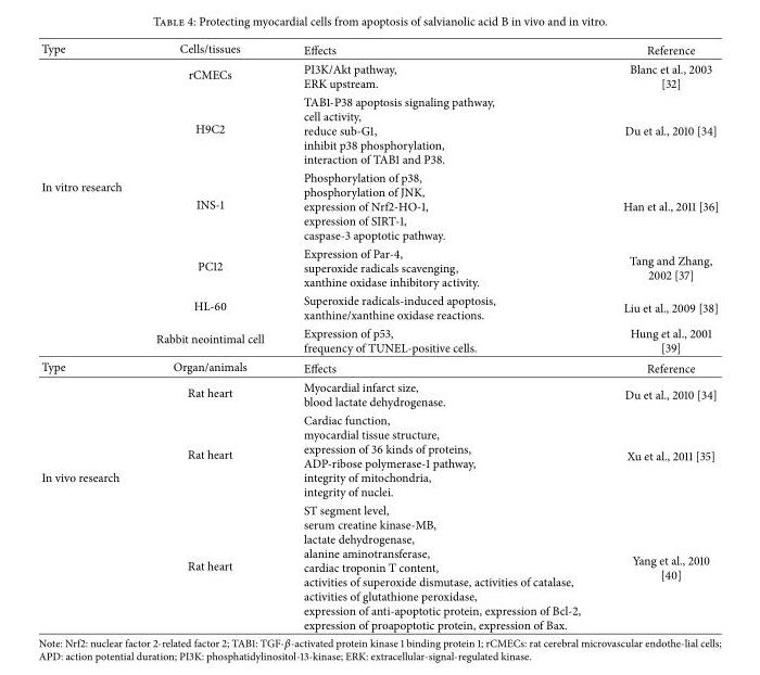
<table><thead><tr><td>Type</td><td>Cells/tissues</td><td>Effects</td><td>Reference</td></tr></thead><tbody><tr><td rowspan="6">In vitro research</td><td>rCMECs</td><td>PI3K/Akt pathway, ERK upstream.</td><td>Blanc et al., 2003 [32]</td></tr><tr><td>H9C2</td><td>TAB1-P38 apoptosis signaling pathway, cell activity, reduce sub-G1, inhibit p38 phosphorylation, interaction of TAB1 and P38.</td><td>Du et al., 2010 [34]</td></tr><tr><td>INS-1</td><td>Phosphorylation of p38, phosphorylation of JNK, expression of Nrf2-HO-1, expression of SIRT-1, caspase-3 apoptotic pathway.</td><td>Han et al., 2011 [36]</td></tr><tr><td>PC12</td><td>Expression of Par-4, superoxide radicals scavenging, xanthine oxidase inhibitory activity.</td><td>Tang and Zhang, 2002 [37]</td></tr><tr><td>HL-60</td><td>Superoxide radicals-induced apoptosis, xanthine/xanthine oxidase reactions.</td><td>Liu et al., 2009 [38]</td></tr><tr><td>Rabbit neointimal cell</td><td>Expression of p53, frequency of TUNEL-positive cells.</td><td>Hung et al., 2001 [39]</td></tr><tr><td>Type</td><td>Organ/animals</td><td>Effects</td><td>Reference</td></tr><tr><td rowspan="3">In vivo research</td><td>Rat heart</td><td>Myocardial infarct size, blood lactate dehydrogenase.</td><td>Du et al., 2010 [34]</td></tr><tr><td>Rat heart</td><td>Cardiac function, myocardial tissue structure, expression of 36 kinds of proteins, ADP-ribose polymerase-1 pathway, integrity of mitochondria, integrity of nuclei.</td><td>Xu et al., 2011 [35]</td></tr><tr><td>Rat heart</td><td>ST segment level, serum creatine kinase-MB, lactate dehydrogenase, alanine aminotransferase, cardiac troponin T content, activities of superoxide dismutase, activities of catalase, activities of glutathione peroxidase, expression of anti-apoptotic protein, expression of Bcl-2, expression of proapoptotic protein, expression of Bax.</td><td>Yang et al., 2010 [40]</td></tr></tbody></table>